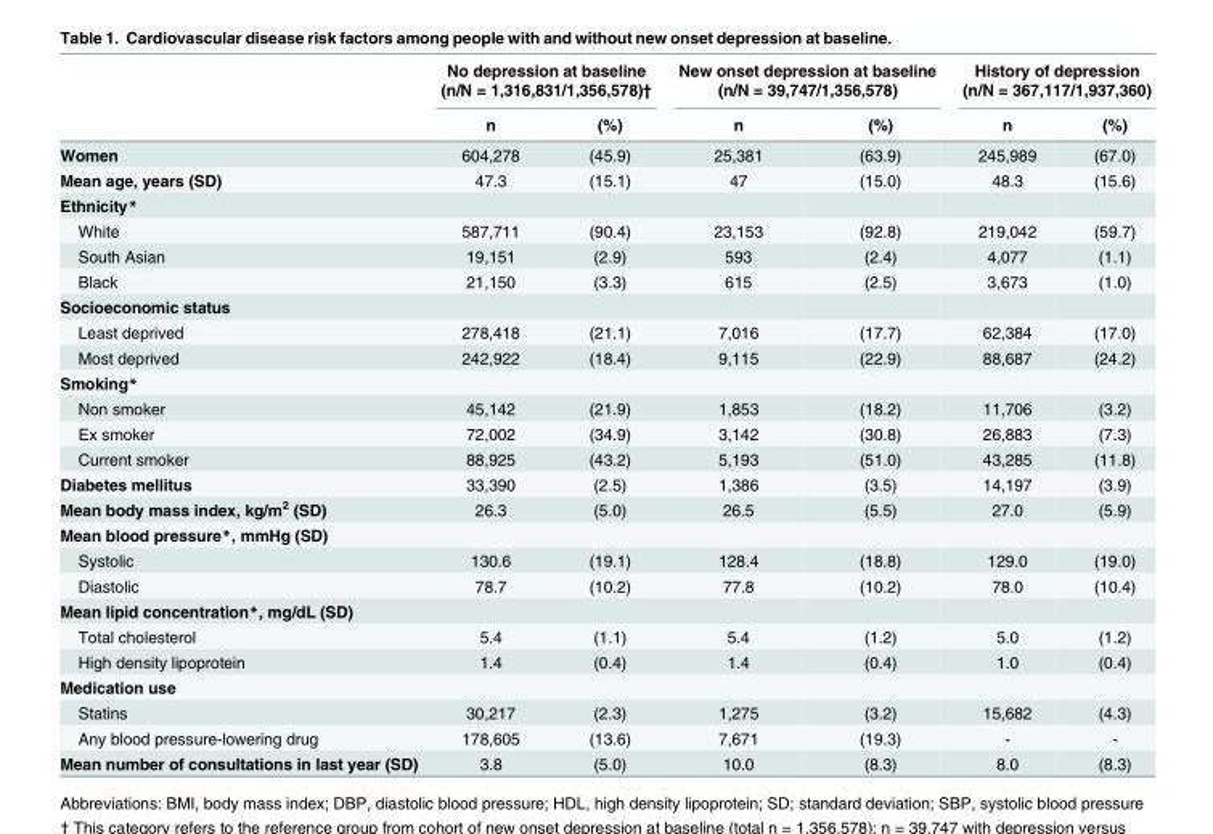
<table><thead><tr><td rowspan="2"></td><td colspan="2">No depression at baseline (n/N = 1,316,831/1,356,578)†</td><td colspan="2">New onset depression at baseline (n/N = 39,747/1,356,578)</td><td colspan="2">History of depression (n/N = 367,117/1,937,360)</td></tr><tr><td>n</td><td>(%)</td><td>n</td><td>(%)</td><td>n</td><td>(%)</td></tr></thead><tbody><tr><td>Women</td><td>604,278</td><td>(45.9)</td><td>25,381</td><td>(63.9)</td><td>245,989</td><td>(67.0)</td></tr><tr><td>Mean age, years (SD)</td><td>47.3</td><td>(15.1)</td><td>47</td><td>(15.0)</td><td>48.3</td><td>(15.6)</td></tr><tr><td colspan="7">Ethnicity*</td></tr><tr><td>White</td><td>587,711</td><td>(90.4)</td><td>23,153</td><td>(92.8)</td><td>219,042</td><td>(59.7)</td></tr><tr><td>South Asian</td><td>19,151</td><td>(2.9)</td><td>593</td><td>(2.4)</td><td>4,077</td><td>(1.1)</td></tr><tr><td>Black</td><td>21,150</td><td>(3.3)</td><td>615</td><td>(2.5)</td><td>3,673</td><td>(1.0)</td></tr><tr><td colspan="7">Socioeconomic status</td></tr><tr><td>Least deprived</td><td>278,418</td><td>(21.1)</td><td>7,016</td><td>(17.7)</td><td>62,384</td><td>(17.0)</td></tr><tr><td>Most deprived</td><td>242,922</td><td>(18.4)</td><td>9,115</td><td>(22.9)</td><td>88,687</td><td>(24.2)</td></tr><tr><td colspan="7">Smoking*</td></tr><tr><td>Non smoker</td><td>45,142</td><td>(21.9)</td><td>1,853</td><td>(18.2)</td><td>11,706</td><td>(3.2)</td></tr><tr><td>Ex smoker</td><td>72,002</td><td>(34.9)</td><td>3,142</td><td>(30.8)</td><td>26,883</td><td>(7.3)</td></tr><tr><td>Current smoker</td><td>88,925</td><td>(43.2)</td><td>5,193</td><td>(51.0)</td><td>43,285</td><td>(11.8)</td></tr><tr><td>Diabetes mellitus</td><td>33,390</td><td>(2.5)</td><td>1,386</td><td>(3.5)</td><td>14,197</td><td>(3.9)</td></tr><tr><td>Mean body mass index, kg/m<sup>2</sup> (SD)</td><td>26.3</td><td>(5.0)</td><td>26.5</td><td>(5.5)</td><td>27.0</td><td>(5.9)</td></tr><tr><td colspan="7">Mean blood pressure*, mmHg (SD)</td></tr><tr><td>Systolic</td><td>130.6</td><td>(19.1)</td><td>128.4</td><td>(18.8)</td><td>129.0</td><td>(19.0)</td></tr><tr><td>Diastolic</td><td>78.7</td><td>(10.2)</td><td>77.8</td><td>(10.2)</td><td>78.0</td><td>(10.4)</td></tr><tr><td colspan="7">Mean lipid concentration*, mg/dL (SD)</td></tr><tr><td>Total cholesterol</td><td>5.4</td><td>(1.1)</td><td>5.4</td><td>(1.2)</td><td>5.0</td><td>(1.2)</td></tr><tr><td>High density lipoprotein</td><td>1.4</td><td>(0.4)</td><td>1.4</td><td>(0.4)</td><td>1.0</td><td>(0.4)</td></tr><tr><td colspan="7">Medication use</td></tr><tr><td>Statins</td><td>30,217</td><td>(2.3)</td><td>1,275</td><td>(3.2)</td><td>15,682</td><td>(4.3)</td></tr><tr><td>Any blood pressure-lowering drug</td><td>178,605</td><td>(13.6)</td><td>7,671</td><td>(19.3)</td><td>-</td><td>-</td></tr><tr><td>Mean number of consultations in last year (SD)</td><td>3.8</td><td>(5.0)</td><td>10.0</td><td>(8.3)</td><td>8.0</td><td>(8.3)</td></tr></tbody></table>